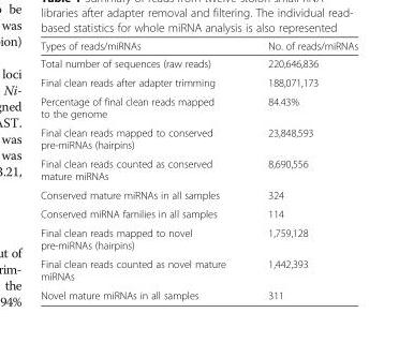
<table><thead><tr><td>Types of reads/miRNAs</td><td>No. of reads/miRNAs</td></tr></thead><tbody><tr><td>Total number of sequences (raw reads)</td><td>220,646,836</td></tr><tr><td>Final clean reads after adapter trimming</td><td>188,071,173</td></tr><tr><td>Percentage of final clean reads mapped to the genome</td><td>84.43%</td></tr><tr><td>Final clean reads mapped to conserved pre-miRNAs (hairpins)</td><td>23,848,593</td></tr><tr><td>Final clean reads counted as conserved mature miRNAs</td><td>8,690,556</td></tr><tr><td>Conserved mature miRNAs in all samples</td><td>324</td></tr><tr><td>Conserved miRNA families in all samples</td><td>114</td></tr><tr><td>Final clean reads mapped to novel pre-miRNAs (hairpins)</td><td>1,759,128</td></tr><tr><td>Final clean reads counted as novel mature miRNAs</td><td>1,442,393</td></tr><tr><td>Novel mature miRNAs in all samples</td><td>311</td></tr></tbody></table>